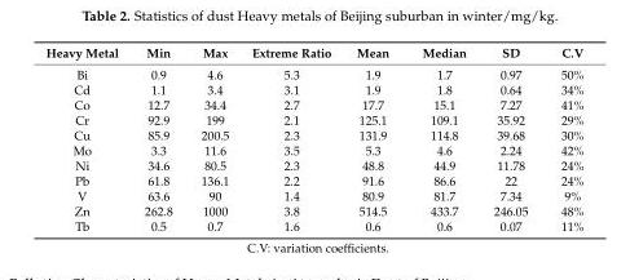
<table><thead><tr><td>Heavy Metal</td><td>Min</td><td>Max</td><td>Extreme Ratio</td><td>Mean</td><td>Median</td><td>SD</td><td>C.V</td></tr></thead><tbody><tr><td>Bi</td><td>0.9</td><td>4.6</td><td>5.3</td><td>1.9</td><td>1.7</td><td>0.97</td><td>50%</td></tr><tr><td>Cd</td><td>1.1</td><td>3.4</td><td>3.1</td><td>1.9</td><td>1.8</td><td>0.64</td><td>34%</td></tr><tr><td>Co</td><td>12.7</td><td>34.4</td><td>2.7</td><td>17.7</td><td>15.1</td><td>7.27</td><td>41%</td></tr><tr><td>Cr</td><td>92.9</td><td>199</td><td>2.1</td><td>125.1</td><td>109.1</td><td>35.92</td><td>29%</td></tr><tr><td>Cu</td><td>85.9</td><td>200.5</td><td>2.3</td><td>131.9</td><td>114.8</td><td>39.68</td><td>30%</td></tr><tr><td>Mo</td><td>3.3</td><td>11.6</td><td>3.5</td><td>5.3</td><td>4.6</td><td>2.24</td><td>42%</td></tr><tr><td>Ni</td><td>34.6</td><td>80.5</td><td>2.3</td><td>48.8</td><td>44.9</td><td>11.78</td><td>24%</td></tr><tr><td>Pb</td><td>61.8</td><td>136.1</td><td>2.2</td><td>91.6</td><td>86.6</td><td>22</td><td>24%</td></tr><tr><td>V</td><td>63.6</td><td>90</td><td>1.4</td><td>80.9</td><td>81.7</td><td>7.34</td><td>9%</td></tr><tr><td>Zn</td><td>262.8</td><td>1000</td><td>3.8</td><td>514.5</td><td>433.7</td><td>246.05</td><td>48%</td></tr><tr><td>Tb</td><td>0.5</td><td>0.7</td><td>1.6</td><td>0.6</td><td>0.6</td><td>0.07</td><td>11%</td></tr></tbody></table>